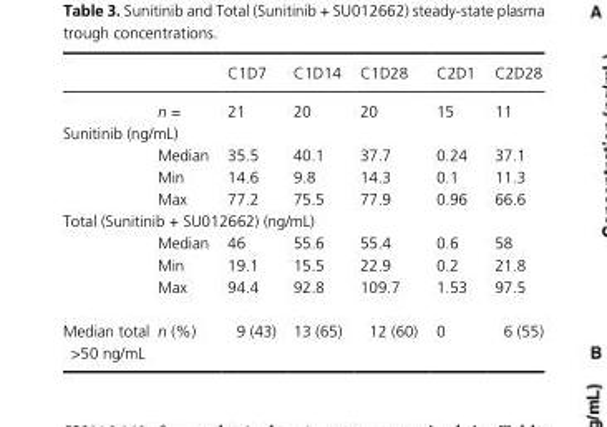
<table><thead><tr><td></td><td></td><td>C1D7</td><td>C1D14</td><td>C1D28</td><td>C2D1</td><td>C2D28</td></tr></thead><tbody><tr><td></td><td>n =</td><td>21</td><td>20</td><td>20</td><td>15</td><td>11</td></tr><tr><td colspan="7">Sunitinib (ng/mL)</td></tr><tr><td></td><td>Median</td><td>35.5</td><td>40.1</td><td>37.7</td><td>0.24</td><td>37.1</td></tr><tr><td></td><td>Min</td><td>14.6</td><td>9.8</td><td>14.3</td><td>0.1</td><td>11.3</td></tr><tr><td></td><td>Max</td><td>77.2</td><td>75.5</td><td>77.9</td><td>0.96</td><td>66.6</td></tr><tr><td colspan="7">Total (Sunitinib + SU012662) (ng/mL)</td></tr><tr><td></td><td>Median</td><td>46</td><td>55.6</td><td>55.4</td><td>0.6</td><td>58</td></tr><tr><td></td><td>Min</td><td>19.1</td><td>15.5</td><td>22.9</td><td>0.2</td><td>21.8</td></tr><tr><td></td><td>Max</td><td>94.4</td><td>92.8</td><td>109.7</td><td>1.53</td><td>97.5</td></tr><tr><td>Median total &gt;50 ng/mL</td><td>n (%)</td><td>9 (43)</td><td>13 (65)</td><td>12 (60)</td><td>0</td><td>6 (55)</td></tr></tbody></table>